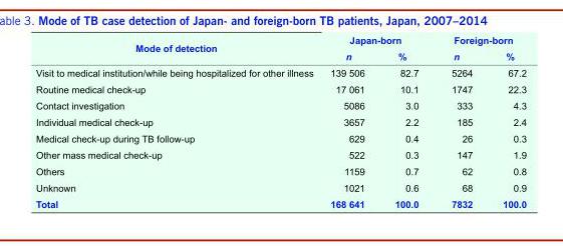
<table><thead><tr><td rowspan="2">Mode of detection</td><td colspan="2">Japan-born</td><td colspan="2">Foreign-born</td></tr><tr><td>n</td><td>%</td><td>n</td><td>%</td></tr></thead><tbody><tr><td>Visit to medical institution/while being hospitalized for other illness</td><td>139 506</td><td>82.7</td><td>5264</td><td>67.2</td></tr><tr><td>Routine medical check-up</td><td>17 061</td><td>10.1</td><td>1747</td><td>22.3</td></tr><tr><td>Contact investigation</td><td>5086</td><td>3.0</td><td>333</td><td>4.3</td></tr><tr><td>Individual medical check-up</td><td>3657</td><td>2.2</td><td>185</td><td>2.4</td></tr><tr><td>Medical check-up during TB follow-up</td><td>629</td><td>0.4</td><td>26</td><td>0.3</td></tr><tr><td>Other mass medical check-up</td><td>522</td><td>0.3</td><td>147</td><td>1.9</td></tr><tr><td>Others</td><td>1159</td><td>0.7</td><td>62</td><td>0.8</td></tr><tr><td>Unknown</td><td>1021</td><td>0.6</td><td>68</td><td>0.9</td></tr><tr><td>Total</td><td>168 641</td><td>100.0</td><td>7832</td><td>100.0</td></tr></tbody></table>